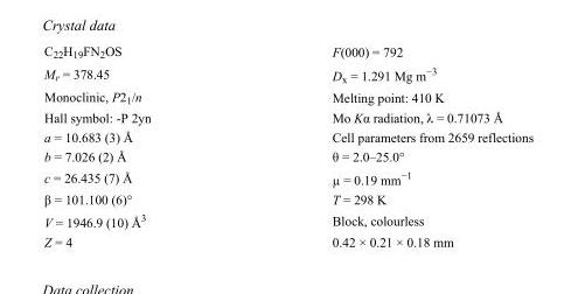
<table><tbody><tr><td>C<sub>22</sub>H<sub>19</sub>FN<sub>2</sub>OS</td><td>F(000) = 792</td></tr><tr><td>M<sub>r</sub> = 378.45</td><td>D<sub>x</sub> = 1.291 Mg m<sup>−3</sup></td></tr><tr><td>Monoclinic, P2<sub>1</sub>/n</td><td>Melting point: 410 K</td></tr><tr><td>Hall symbol: -P 2yn</td><td>Mo Kα radiation, λ = 0.71073 Å</td></tr><tr><td>a = 10.683 (3) Å</td><td>Cell parameters from 2659 reflections</td></tr><tr><td>b = 7.026 (2) Å</td><td>θ = 2.0–25.0°</td></tr><tr><td>c = 26.435 (7) Å</td><td>µ = 0.19 mm<sup>−1</sup></td></tr><tr><td>β = 101.100 (6)°</td><td>T = 298 K</td></tr><tr><td>V = 1946.9 (10) Å<sup>3</sup></td><td>Block, colourless</td></tr><tr><td>Z = 4</td><td>0.42 × 0.21 × 0.18 mm</td></tr></tbody></table>